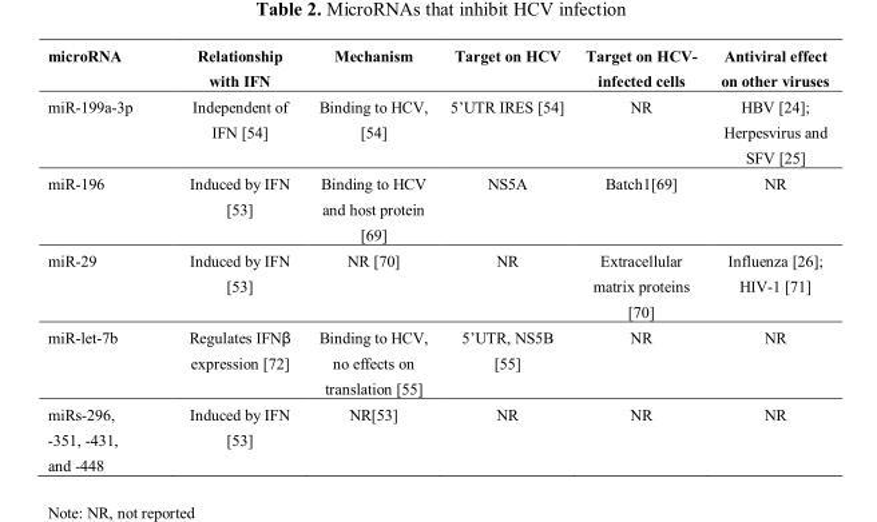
<table><thead><tr><td>microRNA</td><td>Relationship with IFN</td><td>Mechanism</td><td>Target on HCV</td><td>Target on HCV- infected cells</td><td>Antiviral effect on other viruses</td></tr></thead><tbody><tr><td>miR-199a-3p</td><td>Independent of IFN [54]</td><td>Binding to HCV, [54]</td><td>5’UTR IRES [54]</td><td>NR</td><td>HBV [24]; Herpesvirus and SFV [25]</td></tr><tr><td>miR-196</td><td>Induced by IFN [53]</td><td>Binding to HCV and host protein [69]</td><td>NS5A</td><td>Batch1[69]</td><td>NR</td></tr><tr><td>miR-29</td><td>Induced by IFN [53]</td><td>NR [70]</td><td>NR</td><td>Extracellular matrix proteins [70]</td><td>Influenza [26]; HIV-1 [71]</td></tr><tr><td>miR-let-7b</td><td>Regulates IFNβ expression [72]</td><td>Binding to HCV, no effects on translation [55]</td><td>5’UTR, NS5B [55]</td><td>NR</td><td>NR</td></tr><tr><td>miRs-296, -351, -431, and -448</td><td>Induced by IFN [53]</td><td>NR[53]</td><td>NR</td><td>NR</td><td>NR</td></tr></tbody></table>